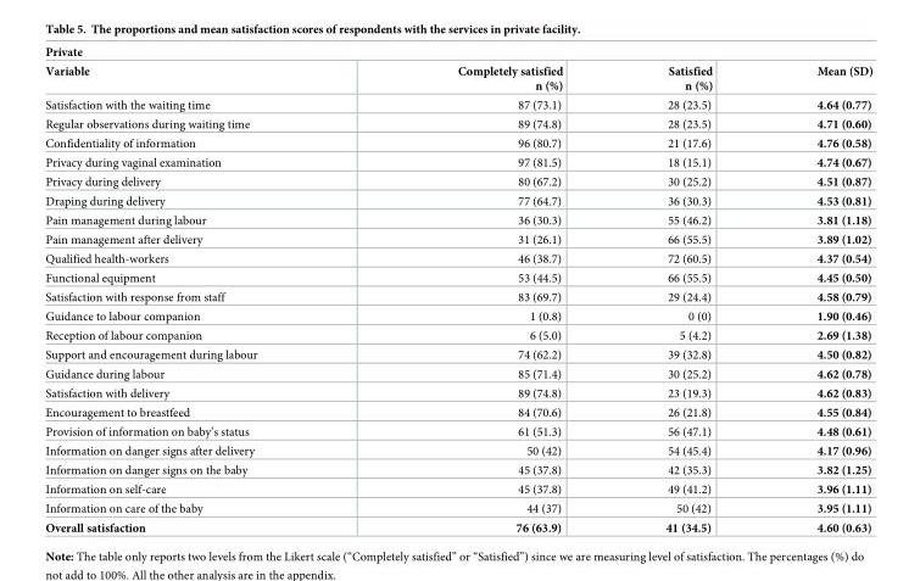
<table><thead><tr><td colspan="4">Private</td></tr><tr><td>Variable</td><td>Completely satisfied n (%)</td><td>Satisfied n (%)</td><td>Mean (SD)</td></tr></thead><tbody><tr><td>Satisfaction with the waiting time</td><td>87 (73.1)</td><td>28 (23.5)</td><td>4.64 (0.77)</td></tr><tr><td>Regular observations during waiting time</td><td>89 (74.8)</td><td>28 (23.5)</td><td>4.71 (0.60)</td></tr><tr><td>Confidentiality of information</td><td>96 (80.7)</td><td>21 (17.6)</td><td>4.76 (0.58)</td></tr><tr><td>Privacy during vaginal examination</td><td>97 (81.5)</td><td>18 (15.1)</td><td>4.74 (0.67)</td></tr><tr><td>Privacy during delivery</td><td>80 (67.2)</td><td>30 (25.2)</td><td>4.51 (0.87)</td></tr><tr><td>Draping during delivery</td><td>77 (64.7)</td><td>36 (30.3)</td><td>4.53 (0.81)</td></tr><tr><td>Pain management during labour</td><td>36 (30.3)</td><td>55 (46.2)</td><td>3.81 (1.18)</td></tr><tr><td>Pain management after delivery</td><td>31 (26.1)</td><td>66 (55.5)</td><td>3.89 (1.02)</td></tr><tr><td>Qualified health-workers</td><td>46 (38.7)</td><td>72 (60.5)</td><td>4.37 (0.54)</td></tr><tr><td>Functional equipment</td><td>53 (44.5)</td><td>66 (55.5)</td><td>4.45 (0.50)</td></tr><tr><td>Satisfaction with response from staff</td><td>83 (69.7)</td><td>29 (24.4)</td><td>4.58 (0.79)</td></tr><tr><td>Guidance to labour companion</td><td>1 (0.8)</td><td>0 (0)</td><td>1.90 (0.46)</td></tr><tr><td>Reception of labour companion</td><td>6 (5.0)</td><td>5 (4.2)</td><td>2.69 (1.38)</td></tr><tr><td>Support and encouragement during labour</td><td>74 (62.2)</td><td>39 (32.8)</td><td>4.50 (0.82)</td></tr><tr><td>Guidance during labour</td><td>85 (71.4)</td><td>30 (25.2)</td><td>4.62 (0.78)</td></tr><tr><td>Satisfaction with delivery</td><td>89 (74.8)</td><td>23 (19.3)</td><td>4.62 (0.83)</td></tr><tr><td>Encouragement to breastfeed</td><td>84 (70.6)</td><td>26 (21.8)</td><td>4.55 (0.84)</td></tr><tr><td>Provision of information on baby’s status</td><td>61 (51.3)</td><td>56 (47.1)</td><td>4.48 (0.61)</td></tr><tr><td>Information on danger signs after delivery</td><td>50 (42)</td><td>54 (45.4)</td><td>4.17 (0.96)</td></tr><tr><td>Information on danger signs on the baby</td><td>45 (37.8)</td><td>42 (35.3)</td><td>3.82 (1.25)</td></tr><tr><td>Information on self-care</td><td>45 (37.8)</td><td>49 (41.2)</td><td>3.96 (1.11)</td></tr><tr><td>Information on care of the baby</td><td>44 (37)</td><td>50 (42)</td><td>3.95 (1.11)</td></tr><tr><td>Overall satisfaction</td><td>76 (63.9)</td><td>41 (34.5)</td><td>4.60 (0.63)</td></tr></tbody></table>